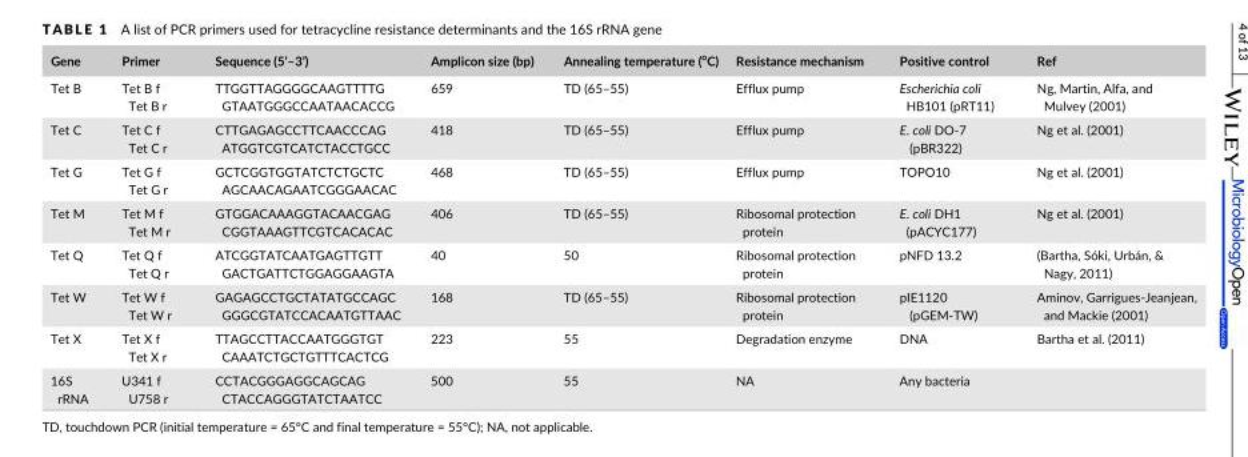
<table><thead><tr><td>Gene</td><td>Primer</td><td>Sequence (5’–3’)</td><td>Amplicon size (bp)</td><td>Annealing temperature (<sup>o</sup>C)</td><td>Resistance mechanism</td><td>Positive control</td><td>Ref</td></tr></thead><tbody><tr><td>Tet B</td><td>Tet B f Tet B r</td><td>TTGGTTAGGGGCAAGTTTTG GTAATGGGCCAATAACACCG</td><td>659</td><td>TD (65–55)</td><td>Efflux pump</td><td>Escherichia coli HB101 (pRT11)</td><td>Ng, Martin, Alfa, and Mulvey (2001)</td></tr><tr><td>Tet C</td><td>Tet C f Tet C r</td><td>CTTGAGAGCCTTCAACCCAG ATGGTCGTCATCTACCTGCC</td><td>418</td><td>TD (65–55)</td><td>Efflux pump</td><td>E. coli DO- 7 (pBR322)</td><td>Ng et al. (2001)</td></tr><tr><td>Tet G</td><td>Tet G f Tet G r</td><td>GCTCGGTGGTATCTCTGCTC AGCAACAGAATCGGGAACAC</td><td>468</td><td>TD (65–55)</td><td>Efflux pump</td><td>TOPO10</td><td>Ng et al. (2001)</td></tr><tr><td>Tet M</td><td>Tet M f Tet M r</td><td>GTGGACAAAGGTACAACGAG CGGTAAAGTTCGTCACACAC</td><td>406</td><td>TD (65–55)</td><td>Ribosomal protection protein</td><td>E. coli DH1 (pACYC177)</td><td>Ng et al. (2001)</td></tr><tr><td>Tet Q</td><td>Tet Q f Tet Q r</td><td>ATCGGTATCAATGAGTTGTT GACTGATTCTGGAGGAAGTA</td><td>40</td><td>50</td><td>Ribosomal protection protein</td><td>pNFD 13.2</td><td>(Bartha, Sóki, Urbán, &amp; Nagy, 2011)</td></tr><tr><td>Tet W</td><td>Tet W f Tet W r</td><td>GAGAGCCTGCTATATGCCAGC GGGCGTATCCACAATGTTAAC</td><td>168</td><td>TD (65–55)</td><td>Ribosomal protection protein</td><td>pIE1120 (pGEM- TW)</td><td>Aminov, Garrigues- Jeanjean, and Mackie (2001)</td></tr><tr><td>Tet X</td><td>Tet X f Tet X r</td><td>TTAGCCTTACCAATGGGTGT CAAATCTGCTGTTTCACTCG</td><td>223</td><td>55</td><td>Degradation enzyme</td><td>DNA</td><td>Bartha et al. (2011)</td></tr><tr><td>16S rRNA</td><td>U341 f U758 r</td><td>CCTACGGGAGGCAGCAG CTACCAGGGTATCTAATCC</td><td>500</td><td>55</td><td>NA</td><td>Any bacteria</td><td></td></tr></tbody></table>